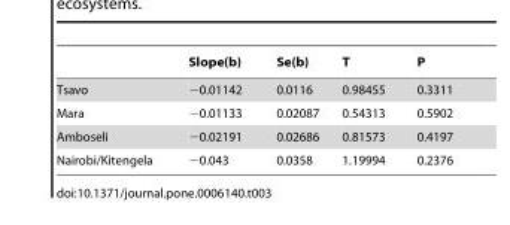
<table><thead><tr><td></td><td>Slope(b)</td><td>Se(b)</td><td>T</td><td>P</td></tr></thead><tbody><tr><td>Tsavo</td><td>−0.01142</td><td>0.0116</td><td>0.98455</td><td>0.3311</td></tr><tr><td>Mara</td><td>−0.01133</td><td>0.02087</td><td>0.54313</td><td>0.5902</td></tr><tr><td>Amboseli</td><td>−0.02191</td><td>0.02686</td><td>0.81573</td><td>0.4197</td></tr><tr><td>Nairobi/Kitengela</td><td>−0.043</td><td>0.0358</td><td>1.19994</td><td>0.2376</td></tr></tbody></table>